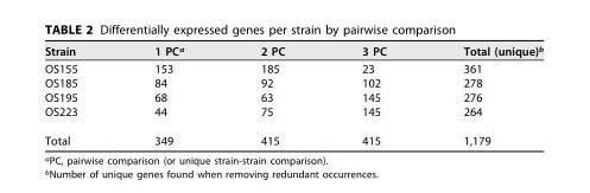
<table><thead><tr><td>Strain</td><td>1 PC<sup>a</sup></td><td>2 PC</td><td>3 PC</td><td>Total (unique)<sup>b</sup></td></tr></thead><tbody><tr><td>OS155</td><td>153</td><td>185</td><td>23</td><td>361</td></tr><tr><td>OS185</td><td>84</td><td>92</td><td>102</td><td>278</td></tr><tr><td>OS195</td><td>68</td><td>63</td><td>145</td><td>276</td></tr><tr><td>OS223</td><td>44</td><td>75</td><td>145</td><td>264</td></tr><tr><td>Total</td><td>349</td><td>415</td><td>415</td><td>1,179</td></tr></tbody></table>